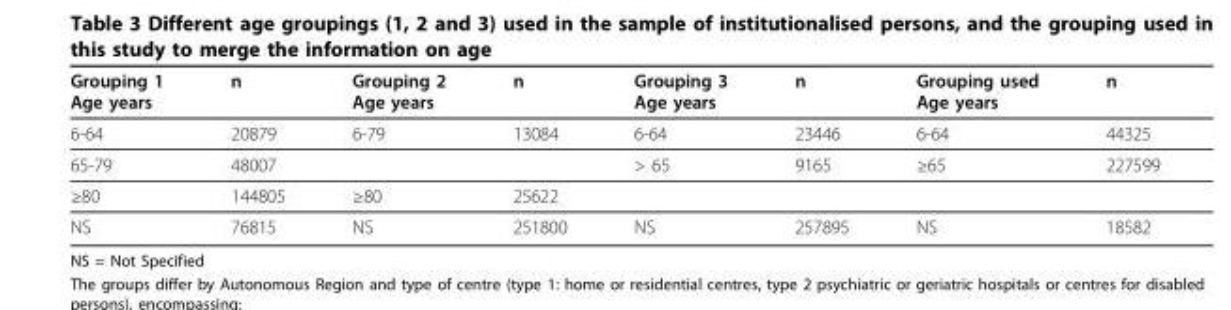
<table><thead><tr><td>Grouping 1 Age years</td><td>n</td><td>Grouping 2 Age years</td><td>n</td><td>Grouping 3 Age years</td><td>n</td><td>Grouping used Age years</td><td>n</td></tr></thead><tbody><tr><td>6-64</td><td>20879</td><td>6-79</td><td>13084</td><td>6-64</td><td>23446</td><td>6-64</td><td>44325</td></tr><tr><td>65-79</td><td>48007</td><td></td><td></td><td>&gt; 65</td><td>9165</td><td>≥65</td><td>227599</td></tr><tr><td>≥80</td><td>144805</td><td>≥80</td><td>25622</td><td></td><td></td><td></td><td></td></tr><tr><td>NS</td><td>76815</td><td>NS</td><td>251800</td><td>NS</td><td>257895</td><td>NS</td><td>18582</td></tr></tbody></table>